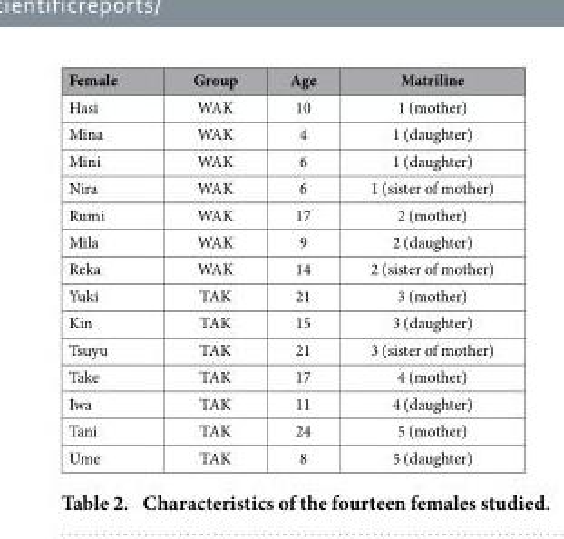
<table><thead><tr><td>Female</td><td>Group</td><td>Age</td><td>Matriline</td></tr></thead><tbody><tr><td>Hasi</td><td>WAK</td><td>10</td><td>1 (mother)</td></tr><tr><td>Mina</td><td>WAK</td><td>4</td><td>1 (daughter)</td></tr><tr><td>Mini</td><td>WAK</td><td>6</td><td>1 (daughter)</td></tr><tr><td>Nira</td><td>WAK</td><td>6</td><td>1 (sister of mother)</td></tr><tr><td>Rumi</td><td>WAK</td><td>17</td><td>2 (mother)</td></tr><tr><td>Mila</td><td>WAK</td><td>9</td><td>2 (daughter)</td></tr><tr><td>Reka</td><td>WAK</td><td>14</td><td>2 (sister of mother)</td></tr><tr><td>Yuki</td><td>TAK</td><td>21</td><td>3 (mother)</td></tr><tr><td>Kin</td><td>TAK</td><td>15</td><td>3 (daughter)</td></tr><tr><td>Tsuyu</td><td>TAK</td><td>21</td><td>3 (sister of mother)</td></tr><tr><td>Take</td><td>TAK</td><td>17</td><td>4 (mother)</td></tr><tr><td>Iwa</td><td>TAK</td><td>11</td><td>4 (daughter)</td></tr><tr><td>Tani</td><td>TAK</td><td>24</td><td>5 (mother)</td></tr><tr><td>Ume</td><td>TAK</td><td>8</td><td>5 (daughter)</td></tr></tbody></table>